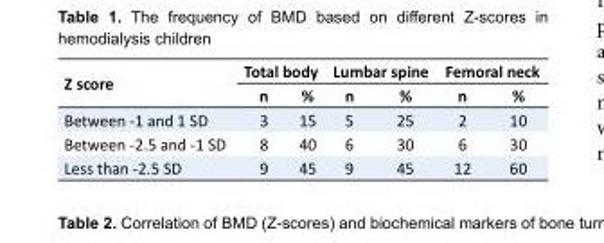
<table><tbody><tr><td rowspan="2">Z score</td><td colspan="2">Total body</td><td colspan="2">Lumbar spine</td><td colspan="2">Femoral neck</td></tr><tr><td>n</td><td>%</td><td>n</td><td>%</td><td>n</td><td>%</td></tr><tr><td>Between -1 and 1 SD</td><td>3</td><td>15</td><td>5</td><td>25</td><td>2</td><td>10</td></tr><tr><td>Between -2.5 and -1 SD</td><td>8</td><td>40</td><td>6</td><td>30</td><td>6</td><td>30</td></tr><tr><td>Less than -2.5 SD</td><td>9</td><td>45</td><td>9</td><td>45</td><td>12</td><td>60</td></tr></tbody></table>